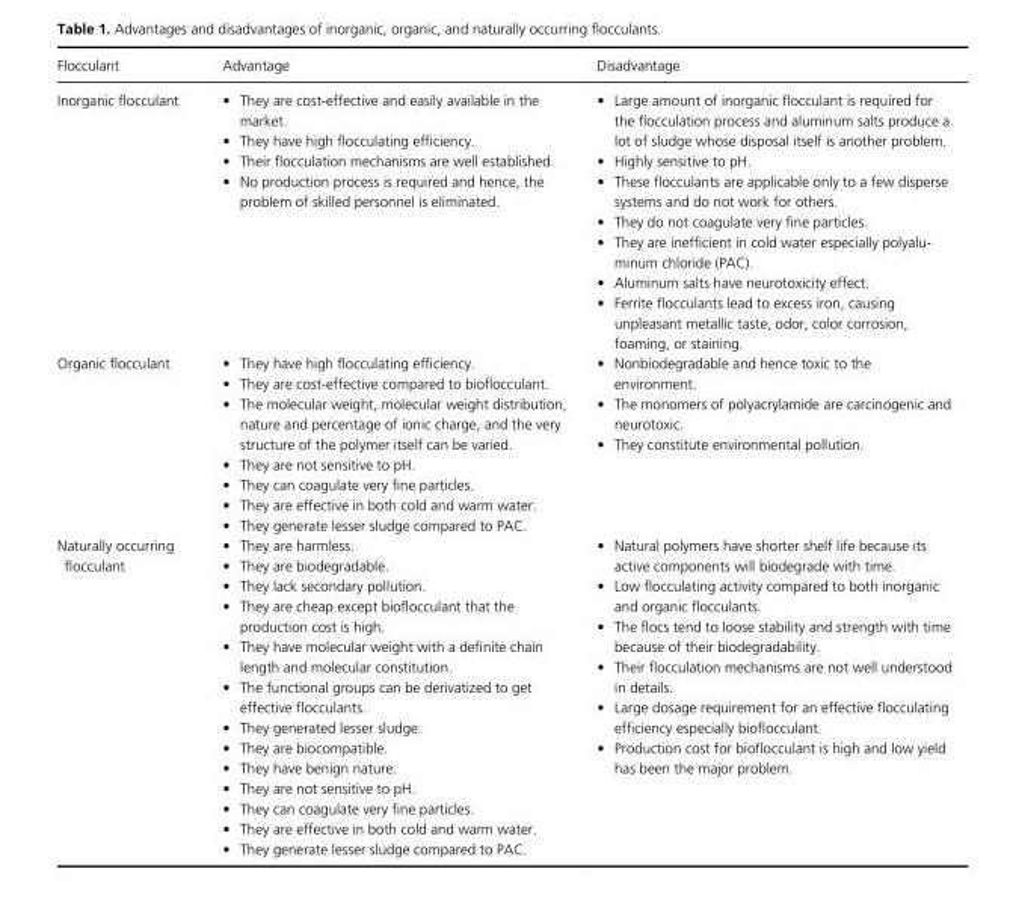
<table><thead><tr><td>Flocculant</td><td>Advantage</td><td>Disadvantage</td></tr></thead><tbody><tr><td>Inorganic flocculant</td><td>• They are cost-effective and easily available in the market. • They have high flocculating efficiency. • Their flocculation mechanisms are well established. • No production process is required and hence, the problem of skilled personnel is eliminated.</td><td>• Large amount of inorganic flocculant is required for the flocculation process and aluminum salts produce a lot of sludge whose disposal itself is another problem. • Highly sensitive to pH. • These flocculants are applicable only to a few disperse systems and do not work for others. • They do not coagulate very fine particles. • They are inefficient in cold water especially polyalu- minum chloride (PAC). • Aluminum salts have neurotoxicity effect. • Ferrite flocculants lead to excess iron, causing unpleasant metallic taste, odor, color corrosion, foaming, or staining.</td></tr><tr><td>Organic flocculant</td><td>• They have high flocculating efficiency. • They are cost-effective compared to bioflocculant. • The molecular weight, molecular weight distribution, nature and percentage of ionic charge, and the very structure of the polymer itself can be varied. • They are not sensitive to pH. • They can coagulate very fine particles. • They are effective in both cold and warm water. • They generate lesser sludge compared to PAC.</td><td>• Nonbiodegradable and hence toxic to the environment. • The monomers of polyacrylamide are carcinogenic and neurotoxic. • They constitute environmental pollution.</td></tr><tr><td>Naturally occurring flocculant</td><td>• They are harmless. • They are biodegradable. • They lack secondary pollution. • They are cheap except bioflocculant that the production cost is high. • They have molecular weight with a definite chain length and molecular constitution. • The functional groups can be derivatized to get effective flocculants. • They generated lesser sludge. • They are biocompatible. • They have benign nature. • They are not sensitive to pH. • They can coagulate very fine particles. • They are effective in both cold and warm water. • They generate lesser sludge compared to PAC.</td><td>• Natural polymers have shorter shelf life because its active components will biodegrade with time. • Low flocculating activity compared to both inorganic and organic flocculants. • The flocs tend to loose stability and strength with time because of their biodegradability. • Their flocculation mechanisms are not well understood in details. • Large dosage requirement for an effective flocculating efficiency especially bioflocculant. • Production cost for bioflocculant is high and low yield has been the major problem.</td></tr></tbody></table>